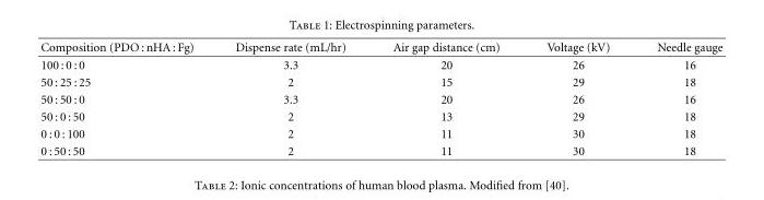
<table><thead><tr><td>Composition (PDO : nHA : Fg)</td><td>Dispense rate (mL/hr)</td><td>Air gap distance (cm)</td><td>Voltage (kV)</td><td>Needle gauge</td></tr></thead><tbody><tr><td>100 : 0 : 0</td><td>3.3</td><td>20</td><td>26</td><td>16</td></tr><tr><td>50 : 25 : 25</td><td>2</td><td>15</td><td>29</td><td>18</td></tr><tr><td>50 : 50 : 0</td><td>3.3</td><td>20</td><td>26</td><td>16</td></tr><tr><td>50 : 0 : 50</td><td>2</td><td>13</td><td>29</td><td>18</td></tr><tr><td>0 : 0 : 100</td><td>2</td><td>11</td><td>30</td><td>18</td></tr><tr><td>0 : 50 : 50</td><td>2</td><td>11</td><td>30</td><td>18</td></tr></tbody></table>